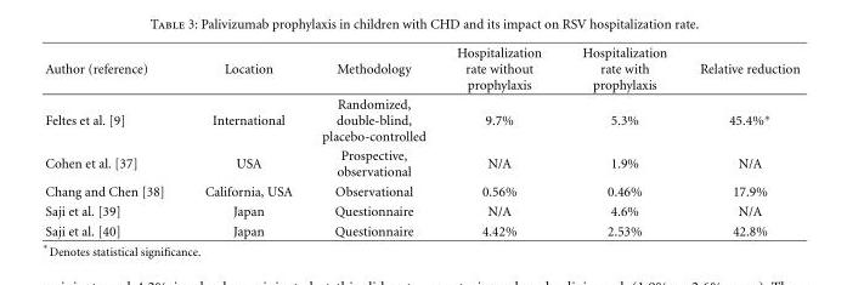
<table><thead><tr><td>Author (reference)</td><td>Location</td><td>Methodology</td><td>Hospitalization rate without prophylaxis</td><td>Hospitalization rate with prophylaxis</td><td>Relative reduction</td></tr></thead><tbody><tr><td>Feltes et al. [9]</td><td>International</td><td>Randomized, double-blind, placebo-controlled</td><td>9.7%</td><td>5.3%</td><td>45.4%∗</td></tr><tr><td>Cohen et al. [37]</td><td>USA</td><td>Prospective, observational</td><td>N/A</td><td>1.9%</td><td>N/A</td></tr><tr><td>Chang and Chen [38]</td><td>California, USA</td><td>Observational</td><td>0.56%</td><td>0.46%</td><td>17.9%</td></tr><tr><td>Saji et al. [39]</td><td>Japan</td><td>Questionnaire</td><td>N/A</td><td>4.6%</td><td>N/A</td></tr><tr><td>Saji et al. [40]</td><td>Japan</td><td>Questionnaire</td><td>4.42%</td><td>2.53%</td><td>42.8%</td></tr></tbody></table>